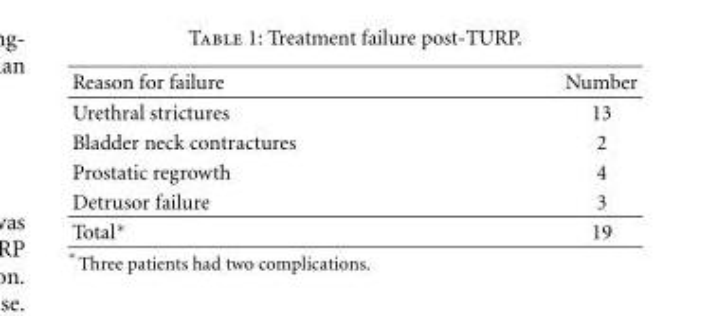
<table><thead><tr><td>Reason for failure</td><td>Number</td></tr></thead><tbody><tr><td>Urethral strictures</td><td>13</td></tr><tr><td>Bladder neck contractures</td><td>2</td></tr><tr><td>Prostatic regrowth</td><td>4</td></tr><tr><td>Detrusor failure</td><td>3</td></tr><tr><td>Total∗</td><td>19</td></tr></tbody></table>